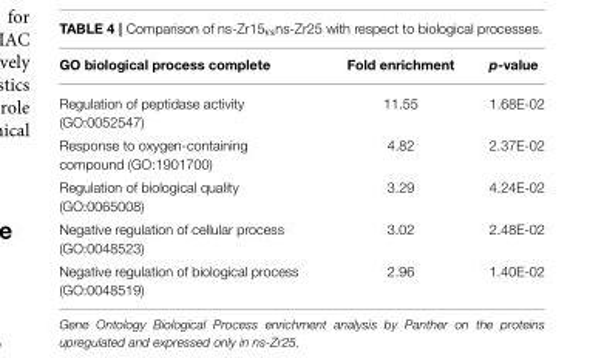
<table><thead><tr><td>GO biological process complete</td><td>Fold enrichment</td><td>p-value</td></tr></thead><tbody><tr><td>Regulation of peptidase activity (GO:0052547)</td><td>11.55</td><td>1.68E-02</td></tr><tr><td>Response to oxygen-containing compound (GO:1901700)</td><td>4.82</td><td>2.37E-02</td></tr><tr><td>Regulation of biological quality (GO:0065008)</td><td>3.29</td><td>4.24E-02</td></tr><tr><td>Negative regulation of cellular process (GO:0048523)</td><td>3.02</td><td>2.48E-02</td></tr><tr><td>Negative regulation of biological process (GO:0048519)</td><td>2.96</td><td>1.40E-02</td></tr></tbody></table>